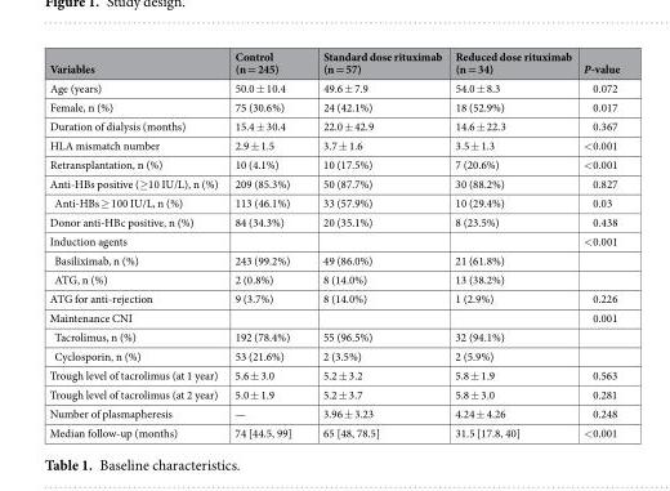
<table><thead><tr><td>Variables</td><td>Control (n = 245)</td><td>Standard dose rituximab (n = 57)</td><td>Reduced dose rituximab (n = 34)</td><td>P-value</td></tr></thead><tbody><tr><td>Age (years)</td><td>50.0 ± 10.4</td><td>49.6 ± 7.9</td><td>54.0 ± 8.3</td><td>0.072</td></tr><tr><td>Female, n (%)</td><td>75 (30.6%)</td><td>24 (42.1%)</td><td>18 (52.9%)</td><td>0.017</td></tr><tr><td>Duration of dialysis (months)</td><td>15.4 ± 30.4</td><td>22.0 ± 42.9</td><td>14.6 ± 22.3</td><td>0.367</td></tr><tr><td>HLA mismatch number</td><td>2.9 ± 1.5</td><td>3.7 ± 1.6</td><td>3.5 ± 1.3</td><td>&lt;0.001</td></tr><tr><td>Retransplantation, n (%)</td><td>10 (4.1%)</td><td>10 (17.5%)</td><td>7 (20.6%)</td><td>&lt;0.001</td></tr><tr><td>Anti-HBs positive (≥10 IU/L), n (%)</td><td>209 (85.3%)</td><td>50 (87.7%)</td><td>30 (88.2%)</td><td>0.827</td></tr><tr><td>Anti-HBs ≥ 100 IU/L, n (%)</td><td>113 (46.1%)</td><td>33 (57.9%)</td><td>10 (29.4%)</td><td>0.03</td></tr><tr><td>Donor anti-HBc positive, n (%)</td><td>84 (34.3%)</td><td>20 (35.1%)</td><td>8 (23.5%)</td><td>0.438</td></tr><tr><td>Induction agents</td><td></td><td></td><td></td><td>&lt;0.001</td></tr><tr><td>Basiliximab, n (%)</td><td>243 (99.2%)</td><td>49 (86.0%)</td><td>21 (61.8%)</td><td></td></tr><tr><td>ATG, n (%)</td><td>2 (0.8%)</td><td>8 (14.0%)</td><td>13 (38.2%)</td><td></td></tr><tr><td>ATG for anti-rejection</td><td>9 (3.7%)</td><td>8 (14.0%)</td><td>1 (2.9%)</td><td>0.226</td></tr><tr><td>Maintenance CNI</td><td></td><td></td><td></td><td>0.001</td></tr><tr><td>Tacrolimus, n (%)</td><td>192 (78.4%)</td><td>55 (96.5%)</td><td>32 (94.1%)</td><td></td></tr><tr><td>Cyclosporin, n (%)</td><td>53 (21.6%)</td><td>2 (3.5%)</td><td>2 (5.9%)</td><td></td></tr><tr><td>Trough level of tacrolimus (at 1 year)</td><td>5.6 ± 3.0</td><td>5.2 ± 3.2</td><td>5.8 ± 1.9</td><td>0.563</td></tr><tr><td>Trough level of tacrolimus (at 2 year)</td><td>5.0 ± 1.9</td><td>5.2 ± 3.7</td><td>5.8 ± 3.0</td><td>0.281</td></tr><tr><td>Number of plasmapheresis</td><td>—</td><td>3.96 ± 3.23</td><td>4.24 ± 4.26</td><td>0.248</td></tr><tr><td>Median follow-up (months)</td><td>74 [44.5, 99]</td><td>65 [48, 78.5]</td><td>31.5 [17.8, 40]</td><td>&lt;0.001</td></tr></tbody></table>